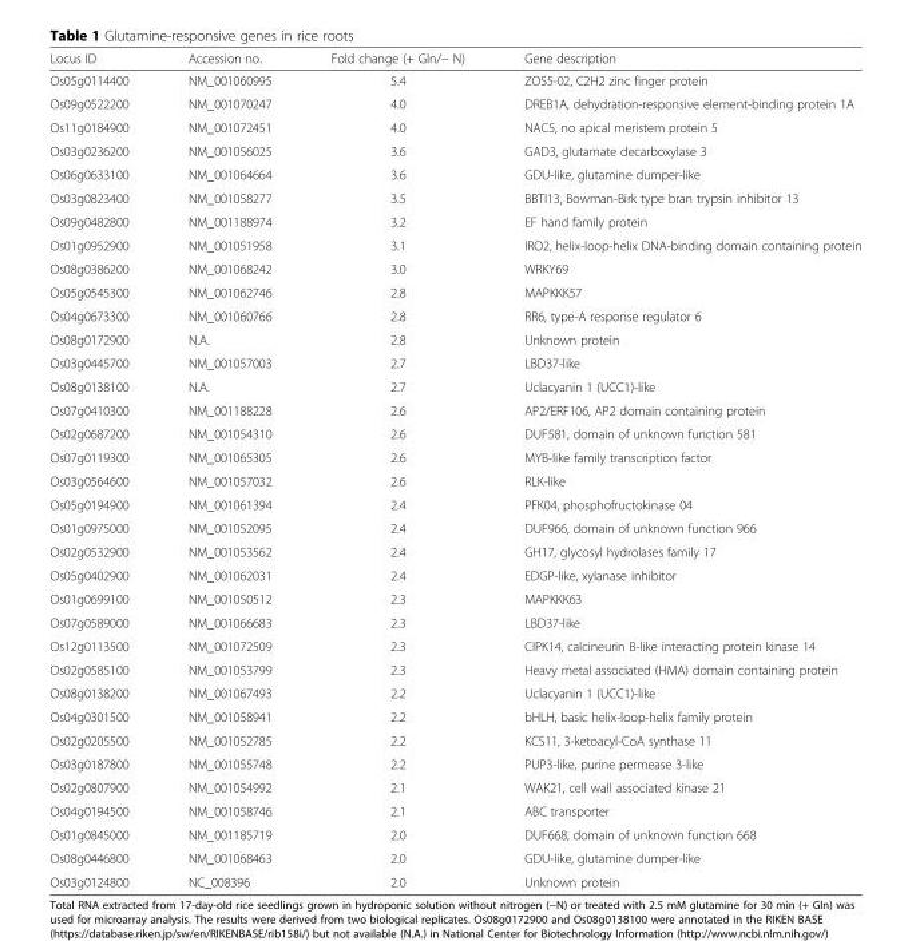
<table><thead><tr><td>Locus ID</td><td>Accession no.</td><td>Fold change (+ Gln/− N)</td><td>Gene description</td></tr></thead><tbody><tr><td>Os05g0114400</td><td>NM_001060995</td><td>5.4</td><td>ZOS5-02, C2H2 zinc finger protein</td></tr><tr><td>Os09g0522200</td><td>NM_001070247</td><td>4.0</td><td>DREB1A, dehydration-responsive element-binding protein 1A</td></tr><tr><td>Os11g0184900</td><td>NM_001072451</td><td>4.0</td><td>NAC5, no apical meristem protein 5</td></tr><tr><td>Os03g0236200</td><td>NM_001056025</td><td>3.6</td><td>GAD3, glutamate decarboxylase 3</td></tr><tr><td>Os06g0633100</td><td>NM_001064664</td><td>3.6</td><td>GDU-like, glutamine dumper-like</td></tr><tr><td>Os03g0823400</td><td>NM_001058277</td><td>3.5</td><td>BBTI13, Bowman-Birk type bran trypsin inhibitor 13</td></tr><tr><td>Os09g0482800</td><td>NM_001188974</td><td>3.2</td><td>EF hand family protein</td></tr><tr><td>Os01g0952900</td><td>NM_001051958</td><td>3.1</td><td>IRO2, helix-loop-helix DNA-binding domain containing protein</td></tr><tr><td>Os08g0386200</td><td>NM_001068242</td><td>3.0</td><td>WRKY69</td></tr><tr><td>Os05g0545300</td><td>NM_001062746</td><td>2.8</td><td>MAPKKK57</td></tr><tr><td>Os04g0673300</td><td>NM_001060766</td><td>2.8</td><td>RR6, type-A response regulator 6</td></tr><tr><td>Os08g0172900</td><td>N.A.</td><td>2.8</td><td>Unknown protein</td></tr><tr><td>Os03g0445700</td><td>NM_001057003</td><td>2.7</td><td>LBD37-like</td></tr><tr><td>Os08g0138100</td><td>N.A.</td><td>2.7</td><td>Uclacyanin 1 (UCC1)-like</td></tr><tr><td>Os07g0410300</td><td>NM_001188228</td><td>2.6</td><td>AP2/ERF106, AP2 domain containing protein</td></tr><tr><td>Os02g0687200</td><td>NM_001054310</td><td>2.6</td><td>DUF581, domain of unknown function 581</td></tr><tr><td>Os07g0119300</td><td>NM_001065305</td><td>2.6</td><td>MYB-like family transcription factor</td></tr><tr><td>Os03g0564600</td><td>NM_001057032</td><td>2.6</td><td>RLK-like</td></tr><tr><td>Os05g0194900</td><td>NM_001061394</td><td>2.4</td><td>PFK04, phosphofructokinase 04</td></tr><tr><td>Os01g0975000</td><td>NM_001052095</td><td>2.4</td><td>DUF966, domain of unknown function 966</td></tr><tr><td>Os02g0532900</td><td>NM_001053562</td><td>2.4</td><td>GH17, glycosyl hydrolases family 17</td></tr><tr><td>Os05g0402900</td><td>NM_001062031</td><td>2.4</td><td>EDGP-like, xylanase inhibitor</td></tr><tr><td>Os01g0699100</td><td>NM_001050512</td><td>2.3</td><td>MAPKKK63</td></tr><tr><td>Os07g0589000</td><td>NM_001066683</td><td>2.3</td><td>LBD37-like</td></tr><tr><td>Os12g0113500</td><td>NM_001072509</td><td>2.3</td><td>CIPK14, calcineurin B-like interacting protein kinase 14</td></tr><tr><td>Os02g0585100</td><td>NM_001053799</td><td>2.3</td><td>Heavy metal associated (HMA) domain containing protein</td></tr><tr><td>Os08g0138200</td><td>NM_001067493</td><td>2.2</td><td>Uclacyanin 1 (UCC1)-like</td></tr><tr><td>Os04g0301500</td><td>NM_001058941</td><td>2.2</td><td>bHLH, basic helix-loop-helix family protein</td></tr><tr><td>Os02g0205500</td><td>NM_001052785</td><td>2.2</td><td>KCS11, 3-ketoacyl-CoA synthase 11</td></tr><tr><td>Os03g0187800</td><td>NM_001055748</td><td>2.2</td><td>PUP3-like, purine permease 3-like</td></tr><tr><td>Os02g0807900</td><td>NM_001054992</td><td>2.1</td><td>WAK21, cell wall associated kinase 21</td></tr><tr><td>Os04g0194500</td><td>NM_001058746</td><td>2.1</td><td>ABC transporter</td></tr><tr><td>Os01g0845000</td><td>NM_001185719</td><td>2.0</td><td>DUF668, domain of unknown function 668</td></tr><tr><td>Os08g0446800</td><td>NM_001068463</td><td>2.0</td><td>GDU-like, glutamine dumper-like</td></tr><tr><td>Os03g0124800</td><td>NC_008396</td><td>2.0</td><td>Unknown protein</td></tr></tbody></table>